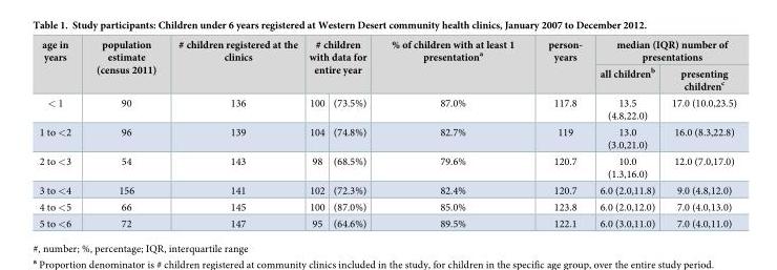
<table><thead><tr><td rowspan="3">age in years &lt; 1</td><td rowspan="3">population estimate (census 2011) 90</td><td rowspan="3"># children registered at the clinics 136</td><td rowspan="2" colspan="2"># children with data for entire year</td><td rowspan="3">% of children with at least 1 presentation<sup>a</sup> 87.0%</td><td rowspan="3">person- years 117.8</td><td colspan="2">median (IQR) number of presentations</td></tr><tr><td rowspan="2">all children<sup>b</sup> 13.5 (4.8,22.0)</td><td rowspan="2">presenting children<sup>c</sup> 17.0 (10.0,23.5)</td></tr><tr><td>100</td><td>(73.5%)</td></tr></thead><tbody><tr><td>1 to &lt;2</td><td>96</td><td>139</td><td>104</td><td>(74.8%)</td><td>82.7%</td><td>119</td><td>13.0 (3.0,21.0)</td><td>16.0 (8.3,22.8)</td></tr><tr><td>2 to &lt;3</td><td>54</td><td>143</td><td>98</td><td>(68.5%)</td><td>79.6%</td><td>120.7</td><td>10.0 (1.3,16.0)</td><td>12.0 (7.0,17.0)</td></tr><tr><td>3 to &lt;4</td><td>156</td><td>141</td><td>102</td><td>(72.3%)</td><td>82.4%</td><td>120.7</td><td>6.0 (2.0,11.8)</td><td>9.0 (4.8,12.0)</td></tr><tr><td>4 to &lt;5</td><td>66</td><td>145</td><td>100</td><td>(87.0%)</td><td>85.0%</td><td>123.8</td><td>6.0 (2.0,12.0)</td><td>7.0 (4.0,13.0)</td></tr><tr><td>5 to &lt;6</td><td>72</td><td>147</td><td>95</td><td>(64.6%)</td><td>89.5%</td><td>122.1</td><td>6.0 (3.0,11.0)</td><td>7.0 (4.0,11.0)</td></tr></tbody></table>